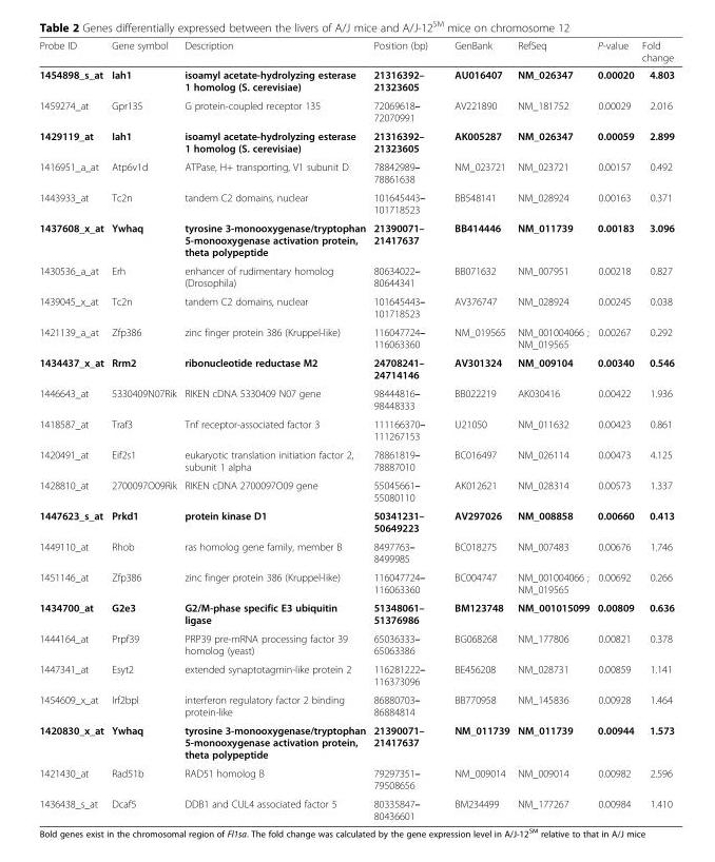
<table><thead><tr><td>Probe ID</td><td>Gene symbol</td><td>Description</td><td>Position (bp)</td><td>GenBank</td><td>RefSeq</td><td>P-value</td><td>Fold change</td></tr></thead><tbody><tr><td>1454898_s_at</td><td>Iah1</td><td>isoamyl acetate-hydrolyzing esterase 1 homolog (S. cerevisiae)</td><td>21316392– 21323605</td><td>AU016407</td><td>NM_026347</td><td>0.00020</td><td>4.803</td></tr><tr><td>1459274_at</td><td>Gpr135</td><td>G protein-coupled receptor 135</td><td>72069618– 72070991</td><td>AV221890</td><td>NM_181752</td><td>0.00029</td><td>2.016</td></tr><tr><td>1429119_at</td><td>Iah1</td><td>isoamyl acetate-hydrolyzing esterase 1 homolog (S. cerevisiae)</td><td>21316392– 21323605</td><td>AK005287</td><td>NM_026347</td><td>0.00059</td><td>2.899</td></tr><tr><td>1416951_a_at</td><td>Atp6v1d</td><td>ATPase, H+ transporting, V1 subunit D</td><td>78842989– 78861638</td><td>NM_023721</td><td>NM_023721</td><td>0.00157</td><td>0.492</td></tr><tr><td>1443933_at</td><td>Tc2n</td><td>tandem C2 domains, nuclear</td><td>101645443– 101718523</td><td>BB548141</td><td>NM_028924</td><td>0.00163</td><td>0.371</td></tr><tr><td>1437608_x_at</td><td>Ywhaq</td><td>tyrosine 3-monooxygenase/tryptophan 5-monooxygenase activation protein, theta polypeptide</td><td>21390071– 21417637</td><td>BB414446</td><td>NM_011739</td><td>0.00183</td><td>3.096</td></tr><tr><td>1430536_a_at</td><td>Erh</td><td>enhancer of rudimentary homolog (Drosophila)</td><td>80634022– 80644341</td><td>BB071632</td><td>NM_007951</td><td>0.00218</td><td>0.827</td></tr><tr><td>1439045_x_at</td><td>Tc2n</td><td>tandem C2 domains, nuclear</td><td>101645443– 101718523</td><td>AV376747</td><td>NM_028924</td><td>0.00245</td><td>0.038</td></tr><tr><td>1421139_a_at</td><td>Zfp386</td><td>zinc finger protein 386 (Kruppel-like)</td><td>116047724– 116063360</td><td>NM_019565</td><td>NM_001004066 ; NM_019565</td><td>0.00267</td><td>0.292</td></tr><tr><td>1434437_x_at</td><td>Rrm2</td><td>ribonucleotide reductase M2</td><td>24708241– 24714146</td><td>AV301324</td><td>NM_009104</td><td>0.00340</td><td>0.546</td></tr><tr><td>1446643_at</td><td>5330409N07Rik</td><td>RIKEN cDNA 5330409 N07 gene</td><td>98444816– 98448333</td><td>BB022219</td><td>AK030416</td><td>0.00422</td><td>1.936</td></tr><tr><td>1418587_at</td><td>Traf3</td><td>Tnf receptor-associated factor 3</td><td>111166370– 111267153</td><td>U21050</td><td>NM_011632</td><td>0.00423</td><td>0.861</td></tr><tr><td>1420491_at</td><td>Eif2s1</td><td>eukaryotic translation initiation factor 2, subunit 1 alpha</td><td>78861819– 78887010</td><td>BC016497</td><td>NM_026114</td><td>0.00473</td><td>4.125</td></tr><tr><td>1428810_at</td><td>2700097O09Rik</td><td>RIKEN cDNA 2700097O09 gene</td><td>55045661– 55080110</td><td>AK012621</td><td>NM_028314</td><td>0.00573</td><td>1.337</td></tr><tr><td>1447623_s_at</td><td>Prkd1</td><td>protein kinase D1</td><td>50341231– 50649223</td><td>AV297026</td><td>NM_008858</td><td>0.00660</td><td>0.413</td></tr><tr><td>1449110_at</td><td>Rhob</td><td>ras homolog gene family, member B</td><td>8497763– 8499985</td><td>BC018275</td><td>NM_007483</td><td>0.00676</td><td>1.746</td></tr><tr><td>1451146_at</td><td>Zfp386</td><td>zinc finger protein 386 (Kruppel-like)</td><td>116047724– 116063360</td><td>BC004747</td><td>NM_001004066 ; NM_019565</td><td>0.00692</td><td>0.266</td></tr><tr><td>1434700_at</td><td>G2e3</td><td>G2/M-phase specific E3 ubiquitin ligase</td><td>51348061– 51376986</td><td>BM123748</td><td>NM_001015099</td><td>0.00809</td><td>0.636</td></tr><tr><td>1444164_at</td><td>Prpf39</td><td>PRP39 pre-mRNA processing factor 39 homolog (yeast)</td><td>65036333– 65063386</td><td>BG068268</td><td>NM_177806</td><td>0.00821</td><td>0.378</td></tr><tr><td>1447341_at</td><td>Esyt2</td><td>extended synaptotagmin-like protein 2</td><td>116281222– 116373096</td><td>BE456208</td><td>NM_028731</td><td>0.00859</td><td>1.141</td></tr><tr><td>1454609_x_at</td><td>Irf2bpl</td><td>interferon regulatory factor 2 binding protein-like</td><td>86880703– 86884814</td><td>BB770958</td><td>NM_145836</td><td>0.00928</td><td>1.464</td></tr><tr><td>1420830_x_at</td><td>Ywhaq</td><td>tyrosine 3-monooxygenase/tryptophan 5-monooxygenase activation protein, theta polypeptide</td><td>21390071– 21417637</td><td>NM_011739</td><td>NM_011739</td><td>0.00944</td><td>1.573</td></tr><tr><td>1421430_at</td><td>Rad51b</td><td>RAD51 homolog B</td><td>79297351– 79508656</td><td>NM_009014</td><td>NM_009014</td><td>0.00982</td><td>2.596</td></tr><tr><td>1436438_s_at</td><td>Dcaf5</td><td>DDB1 and CUL4 associated factor 5</td><td>80335847– 80436601</td><td>BM234499</td><td>NM_177267</td><td>0.00984</td><td>1.410</td></tr></tbody></table>